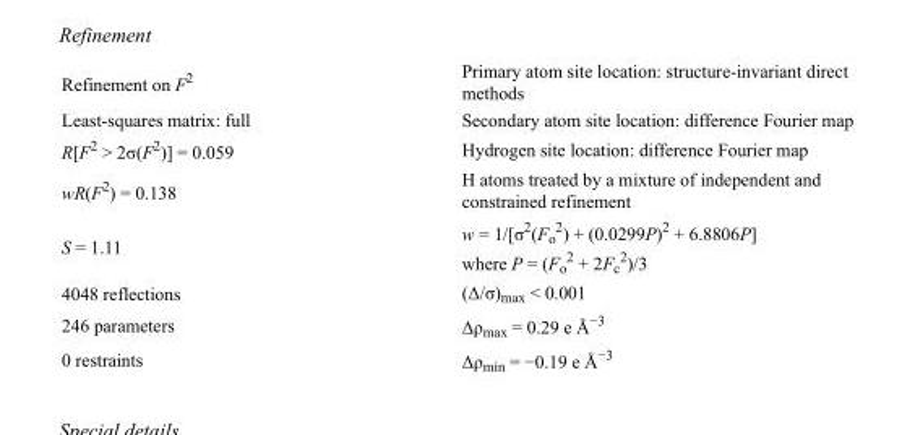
<table><tbody><tr><td>Refinement on F<sup>2</sup></td><td>Primary atom site location: structure-invariant direct methods</td></tr><tr><td>Least-squares matrix: full</td><td>Secondary atom site location: difference Fourier map</td></tr><tr><td>R[F<sup>2</sup> &gt; 2σ(F<sup>2</sup>)] = 0.059</td><td>Hydrogen site location: difference Fourier map</td></tr><tr><td>wR(F<sup>2</sup>) = 0.138</td><td>H atoms treated by a mixture of independent and constrained refinement</td></tr><tr><td>S = 1.11</td><td>w = 1/[σ<sup>2</sup>(F<sub>o</sub> <sup>2</sup>) + (0.0299P)<sup>2</sup> + 6.8806P] where P = (F<sub>o</sub> <sup>2</sup> + 2F<sub>c</sub> <sup>2</sup>)/3</td></tr><tr><td>4048 reflections</td><td>(Δ/σ)<sub>max</sub> &lt; 0.001</td></tr><tr><td>246 parameters</td><td>Δρ<sub>max</sub> = 0.29 e Å<sup>−3</sup></td></tr><tr><td>0 restraints</td><td>Δρ<sub>min</sub> = −0.19 e Å<sup>−3</sup></td></tr></tbody></table>